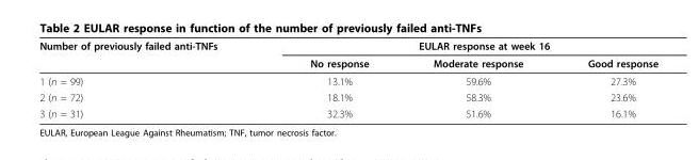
<table><thead><tr><td rowspan="2">Number of previously failed anti-TNFs</td><td colspan="3">EULAR response at week 16</td></tr><tr><td>No response</td><td>Moderate response</td><td>Good response</td></tr></thead><tbody><tr><td>1 (n = 99)</td><td>13.1%</td><td>59.6%</td><td>27.3%</td></tr><tr><td>2 (n = 72)</td><td>18.1%</td><td>58.3%</td><td>23.6%</td></tr><tr><td>3 (n = 31)</td><td>32.3%</td><td>51.6%</td><td>16.1%</td></tr></tbody></table>